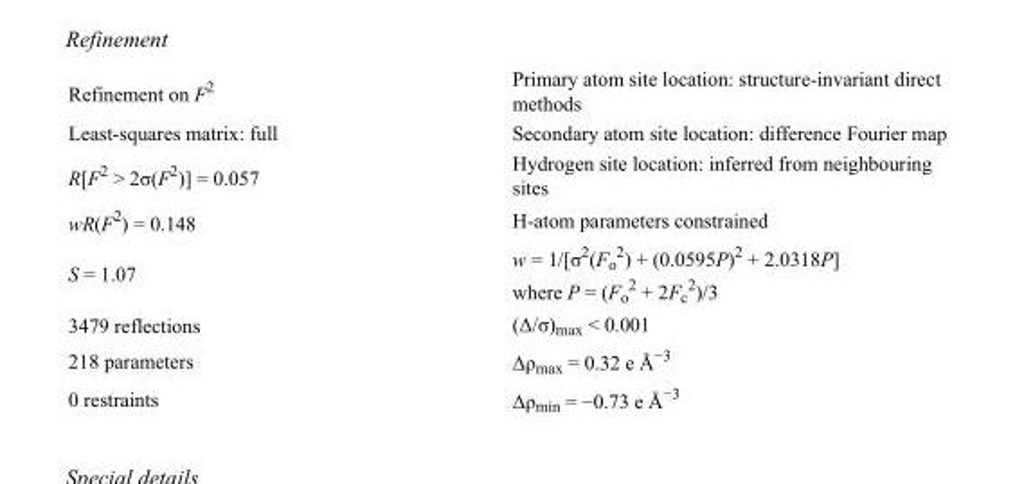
<table><tbody><tr><td>Refinement on F<sup>2</sup></td><td>Primary atom site location: structure-invariant direct methods</td></tr><tr><td>Least-squares matrix: full</td><td>Secondary atom site location: difference Fourier map</td></tr><tr><td>R[F<sup>2</sup> &gt; 2σ(F<sup>2</sup>)] = 0.057</td><td>Hydrogen site location: inferred from neighbouring sites</td></tr><tr><td>wR(F<sup>2</sup>) = 0.148</td><td>H-atom parameters constrained</td></tr><tr><td>S = 1.07</td><td>w = 1/[σ<sup>2</sup>(F<sub>o</sub> <sup>2</sup>) + (0.0595P)<sup>2</sup> + 2.0318P] where P = (F<sub>o</sub> <sup>2</sup> + 2F<sub>c</sub> <sup>2</sup>)/3</td></tr><tr><td>3479 reflections</td><td>(Δ/σ)<sub>max</sub> &lt; 0.001</td></tr><tr><td>218 parameters</td><td>Δρ<sub>max</sub> = 0.32 e Å<sup>−3</sup></td></tr><tr><td>0 restraints</td><td>Δρ<sub>min</sub> = −0.73 e Å<sup>−3</sup></td></tr></tbody></table>